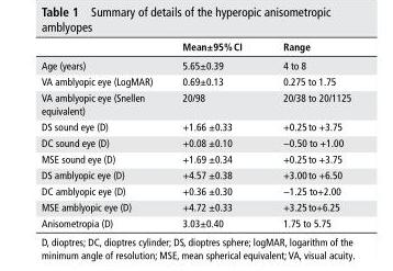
<table><thead><tr><td></td><td>Mean±95% CI</td><td>range</td></tr></thead><tbody><tr><td>Age (years)</td><td>5.65±0.39</td><td>4 to 8</td></tr><tr><td>VA amblyopic eye (LogMAR)</td><td>0.69±0.13</td><td>0.275 to 1.75</td></tr><tr><td>VA amblyopic eye (Snellen equivalent)</td><td>20/98</td><td>20/38 to 20/1125</td></tr><tr><td>DS sound eye (D)</td><td>+1.66 ±0.33</td><td>+0.25 to +3.75</td></tr><tr><td>DC sound eye (D)</td><td>+0.08 ±0.10</td><td>−0.50 to +1.00</td></tr><tr><td>MSE sound eye (D)</td><td>+1.69 ±0.34</td><td>+0.25 to +3.75</td></tr><tr><td>DS amblyopic eye (D)</td><td>+4.57 ±0.38</td><td>+3.00 to +6.50</td></tr><tr><td>DC amblyopic eye (D)</td><td>+0.36 ±0.30</td><td>−1.25 to+2.00</td></tr><tr><td>MSE amblyopic eye (D)</td><td>+4.72 ±0.33</td><td>+3.25 to+6.25</td></tr><tr><td>Anisometropia (D)</td><td>3.03±0.40</td><td>1.75 to 5.75</td></tr></tbody></table>